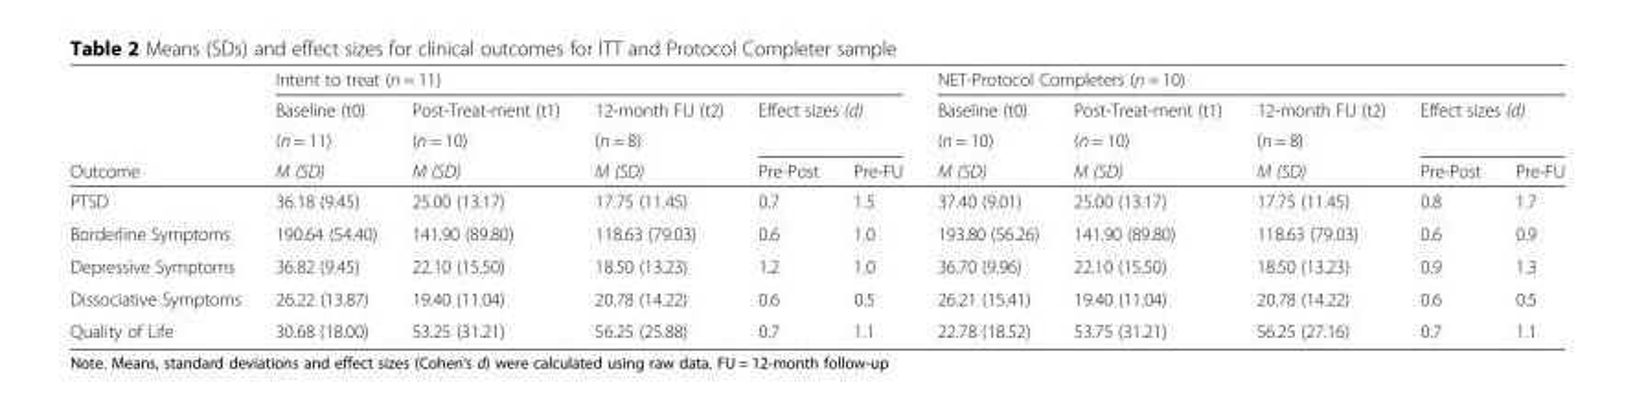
<table><thead><tr><td rowspan="4">Outcome</td><td colspan="5">Intent to treat (n = 11)</td><td colspan="5">NET-Protocol Completers (n = 10)</td></tr><tr><td rowspan="3">Baseline (t0) (n = 11) M (SD)</td><td rowspan="3">Post-Treat-ment (t1) (n = 10) M (SD)</td><td rowspan="3">12-month FU (t2) (n = 8) M (SD)</td><td rowspan="2" colspan="2">Effect sizes (d)</td><td rowspan="3">Baseline (t0) (n = 10) M (SD)</td><td rowspan="3">Post-Treat-ment (t1) (n = 10) M (SD)</td><td rowspan="3">12-month FU (t2) (n = 8) M (SD)</td><td rowspan="2" colspan="2">Effect sizes (d)</td></tr><tr></tr><tr><td>Pre-Post</td><td>Pre-FU</td><td>Pre-Post</td><td>Pre-FU</td></tr></thead><tbody><tr><td>PTSD</td><td>36.18 (9.45)</td><td>25.00 (13.17)</td><td>17.75 (11.45)</td><td>0.7</td><td>1.5</td><td>37.40 (9.01)</td><td>25.00 (13.17)</td><td>17.75 (11.45)</td><td>0.8</td><td>1.7</td></tr><tr><td>Borderline Symptoms</td><td>190.64 (54.40)</td><td>141.90 (89.80)</td><td>118.63 (79.03)</td><td>0.6</td><td>1.0</td><td>193.80 (56.26)</td><td>141.90 (89.80)</td><td>118.63 (79.03)</td><td>0.6</td><td>0.9</td></tr><tr><td>Depressive Symptoms</td><td>36.82 (9.45)</td><td>22.10 (15.50)</td><td>18.50 (13.23)</td><td>1.2</td><td>1.0</td><td>36.70 (9.96)</td><td>22.10 (15.50)</td><td>18.50 (13.23)</td><td>0.9</td><td>1.3</td></tr><tr><td>Dissociative Symptoms</td><td>26.22 (13.87)</td><td>19.40 (11.04)</td><td>20.78 (14.22)</td><td>0.6</td><td>0.5</td><td>26.21 (15.41)</td><td>19.40 (11.04)</td><td>20.78 (14.22)</td><td>0.6</td><td>0.5</td></tr><tr><td>Quality of Life</td><td>30.68 (18.00)</td><td>53.25 (31.21)</td><td>56.25 (25.88)</td><td>0.7</td><td>1.1</td><td>22.78 (18.52)</td><td>53.75 (31.21)</td><td>56.25 (27.16)</td><td>0.7</td><td>1.1</td></tr></tbody></table>